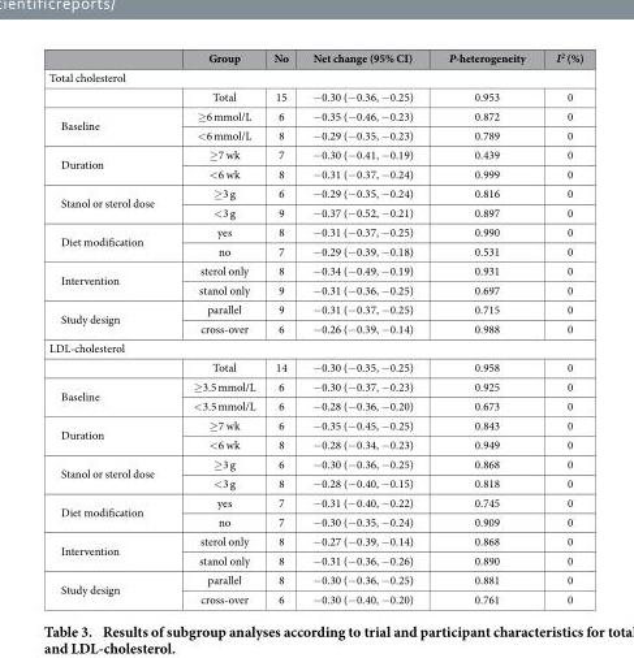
<table><thead><tr><td></td><td>Group</td><td>No</td><td>Net change (95% CI)</td><td>P-heterogeneity</td><td>I<sup>2</sup> (%)</td></tr></thead><tbody><tr><td colspan="6">Total cholesterol</td></tr><tr><td></td><td>Total</td><td>15</td><td>− 0.30 (− 0.36, − 0.25)</td><td>0.953</td><td>0</td></tr><tr><td rowspan="2">Baseline</td><td>≥ 6 mmol/L</td><td>6</td><td>− 0.35 (− 0.46, − 0.23)</td><td>0.872</td><td>0</td></tr><tr><td>&lt; 6 mmol/L</td><td>8</td><td>− 0.29 (− 0.35, − 0.23)</td><td>0.789</td><td>0</td></tr><tr><td rowspan="2">Duration</td><td>≥ 7 wk</td><td>7</td><td>− 0.30 (− 0.41, − 0.19)</td><td>0.439</td><td>0</td></tr><tr><td>&lt; 6 wk</td><td>8</td><td>− 0.31 (− 0.37, − 0.24)</td><td>0.999</td><td>0</td></tr><tr><td rowspan="2">Stanol or sterol dose</td><td>≥ 3 g</td><td>6</td><td>− 0.29 (− 0.35, − 0.24)</td><td>0.816</td><td>0</td></tr><tr><td>&lt; 3 g</td><td>9</td><td>− 0.37 (− 0.52, − 0.21)</td><td>0.897</td><td>0</td></tr><tr><td rowspan="2">Diet modification</td><td>yes</td><td>8</td><td>− 0.31 (− 0.37, − 0.25)</td><td>0.990</td><td>0</td></tr><tr><td>no</td><td>7</td><td>− 0.29 (− 0.39, − 0.18)</td><td>0.531</td><td>0</td></tr><tr><td rowspan="2">Intervention</td><td>sterol only</td><td>8</td><td>− 0.34 (− 0.49, − 0.19)</td><td>0.931</td><td>0</td></tr><tr><td>stanol only</td><td>9</td><td>− 0.31 (− 0.36, − 0.25)</td><td>0.697</td><td>0</td></tr><tr><td rowspan="2">Study design</td><td>parallel</td><td>9</td><td>− 0.31 (− 0.37, − 0.25)</td><td>0.715</td><td>0</td></tr><tr><td>cross-over</td><td>6</td><td>− 0.26 (− 0.39, − 0.14)</td><td>0.988</td><td>0</td></tr><tr><td colspan="6">LDL-cholesterol</td></tr><tr><td></td><td>Total</td><td>14</td><td>− 0.30 (− 0.35, − 0.25)</td><td>0.958</td><td>0</td></tr><tr><td rowspan="2">Baseline</td><td>≥ 3.5 mmol/L</td><td>6</td><td>− 0.30 (− 0.37, − 0.23)</td><td>0.925</td><td>0</td></tr><tr><td>&lt; 3.5 mmol/L</td><td>6</td><td>− 0.28 (− 0.36, − 0.20)</td><td>0.673</td><td>0</td></tr><tr><td rowspan="2">Duration</td><td>≥ 7 wk</td><td>6</td><td>− 0.35 (− 0.45, − 0.25)</td><td>0.843</td><td>0</td></tr><tr><td>&lt; 6 wk</td><td>8</td><td>− 0.28 (− 0.34, − 0.23)</td><td>0.949</td><td>0</td></tr><tr><td rowspan="2">Stanol or sterol dose</td><td>≥ 3 g</td><td>6</td><td>− 0.30 (− 0.36, − 0.25)</td><td>0.868</td><td>0</td></tr><tr><td>&lt; 3 g</td><td>8</td><td>− 0.28 (− 0.40, − 0.15)</td><td>0.818</td><td>0</td></tr><tr><td rowspan="2">Diet modification</td><td>yes</td><td>7</td><td>− 0.31 (− 0.40, − 0.22)</td><td>0.745</td><td>0</td></tr><tr><td>no</td><td>7</td><td>− 0.30 (− 0.35, − 0.24)</td><td>0.909</td><td>0</td></tr><tr><td rowspan="2">Intervention</td><td>sterol only</td><td>8</td><td>− 0.27 (− 0.39, − 0.14)</td><td>0.868</td><td>0</td></tr><tr><td>stanol only</td><td>8</td><td>− 0.31 (− 0.36, − 0.26)</td><td>0.890</td><td>0</td></tr><tr><td rowspan="2">Study design</td><td>parallel</td><td>8</td><td>− 0.30 (− 0.36, − 0.25)</td><td>0.881</td><td>0</td></tr><tr><td>cross-over</td><td>6</td><td>− 0.30 (− 0.40, − 0.20)</td><td>0.761</td><td>0</td></tr></tbody></table>